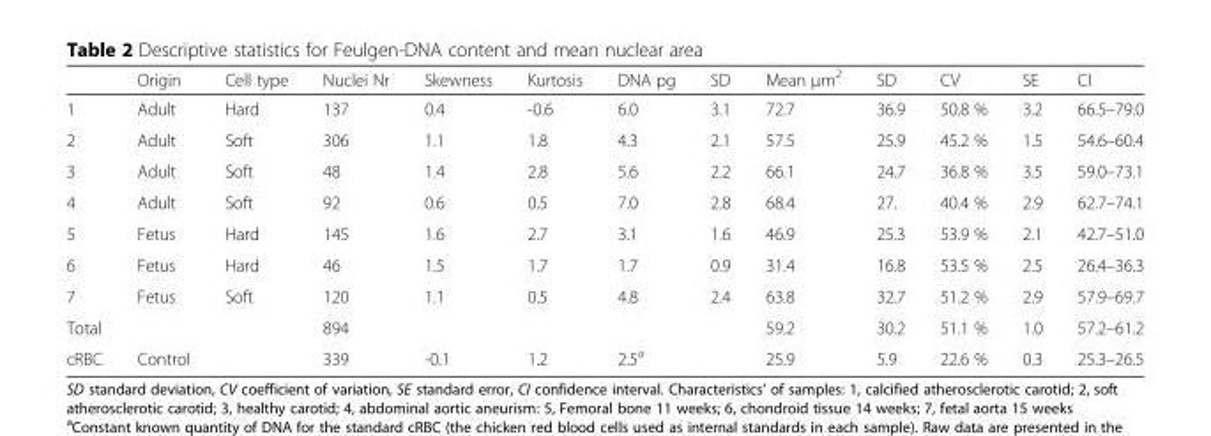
<table><thead><tr><td></td><td>Origin</td><td>Cell type</td><td>Nuclei Nr</td><td>Skewness</td><td>Kurtosis</td><td>DNA pg</td><td>SD</td><td>Mean μm<sup>2</sup></td><td>SD</td><td>CV</td><td>SE</td><td>CI</td></tr></thead><tbody><tr><td>1</td><td>Adult</td><td>Hard</td><td>137</td><td>0.4</td><td>-0.6</td><td>6.0</td><td>3.1</td><td>72.7</td><td>36.9</td><td>50.8 %</td><td>3.2</td><td>66.5–79.0</td></tr><tr><td>2</td><td>Adult</td><td>Soft</td><td>306</td><td>1.1</td><td>1.8</td><td>4.3</td><td>2.1</td><td>57.5</td><td>25.9</td><td>45.2 %</td><td>1.5</td><td>54.6–60.4</td></tr><tr><td>3</td><td>Adult</td><td>Soft</td><td>48</td><td>1.4</td><td>2.8</td><td>5.6</td><td>2.2</td><td>66.1</td><td>24.7</td><td>36.8 %</td><td>3.5</td><td>59.0–73.1</td></tr><tr><td>4</td><td>Adult</td><td>Soft</td><td>92</td><td>0.6</td><td>0.5</td><td>7.0</td><td>2.8</td><td>68.4</td><td>27.</td><td>40.4 %</td><td>2.9</td><td>62.7–74.1</td></tr><tr><td>5</td><td>Fetus</td><td>Hard</td><td>145</td><td>1.6</td><td>2.7</td><td>3.1</td><td>1.6</td><td>46.9</td><td>25.3</td><td>53.9 %</td><td>2.1</td><td>42.7–51.0</td></tr><tr><td>6</td><td>Fetus</td><td>Hard</td><td>46</td><td>1.5</td><td>1.7</td><td>1.7</td><td>0.9</td><td>31.4</td><td>16.8</td><td>53.5 %</td><td>2.5</td><td>26.4–36.3</td></tr><tr><td>7</td><td>Fetus</td><td>Soft</td><td>120</td><td>1.1</td><td>0.5</td><td>4.8</td><td>2.4</td><td>63.8</td><td>32.7</td><td>51.2 %</td><td>2.9</td><td>57.9–69.7</td></tr><tr><td>Total</td><td></td><td></td><td>894</td><td></td><td></td><td colspan="2"></td><td>59.2</td><td>30.2</td><td>51.1 %</td><td>1.0</td><td>57.2–61.2</td></tr><tr><td>cRBC</td><td>Control</td><td></td><td>339</td><td>-0.1</td><td>1.2</td><td colspan="2">2.5<sup>a</sup></td><td>25.9</td><td>5.9</td><td>22.6 %</td><td>0.3</td><td>25.3–26.5</td></tr></tbody></table>